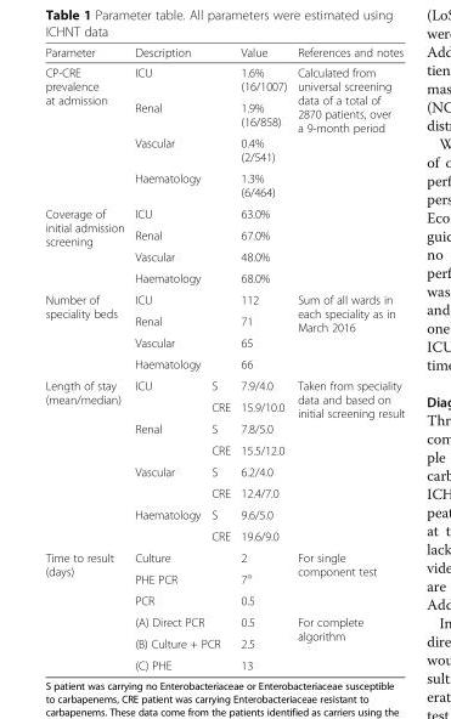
<table><thead><tr><td>Parameter</td><td colspan="2">Description</td><td>Value</td><td>References and notes</td></tr></thead><tbody><tr><td rowspan="4">CP-CRE prevalence at admission</td><td colspan="2">ICU</td><td>1.6% (16/1007)</td><td rowspan="8">Calculated from universal screening data of a total of 2870 patients, over a 9-month period</td></tr><tr><td colspan="2">Renal</td><td>1.9% (16/858)</td></tr><tr><td colspan="2">Vascular</td><td>0.4% (2/541)</td></tr><tr><td colspan="2">Haematology</td><td>1.3% (6/464)</td></tr><tr><td rowspan="4">Coverage of initial admission screening</td><td colspan="2">ICU</td><td>63.0%</td></tr><tr><td colspan="2">Renal</td><td>67.0%</td></tr><tr><td colspan="2">Vascular</td><td>48.0%</td></tr><tr><td colspan="2">Haematology</td><td>68.0%</td></tr><tr><td rowspan="4">Number of speciality beds</td><td colspan="2">ICU</td><td>112</td><td rowspan="4">Sum of all wards in each speciality as in March 2016</td></tr><tr><td colspan="2">Renal</td><td>71</td></tr><tr><td colspan="2">Vascular</td><td>65</td></tr><tr><td colspan="2">Haematology</td><td>66</td></tr><tr><td rowspan="8">Length of stay (mean/median)</td><td rowspan="2">ICU</td><td>S</td><td>7.9/4.0</td><td rowspan="8">Taken from speciality data and based on initial screening result</td></tr><tr><td>CRE</td><td>15.9/10.0</td></tr><tr><td rowspan="2">Renal</td><td>S</td><td>7.8/5.0</td></tr><tr><td>CRE</td><td>15.5/12.0</td></tr><tr><td rowspan="2">Vascular</td><td>S</td><td>6.2/4.0</td></tr><tr><td>CRE</td><td>12.4/7.0</td></tr><tr><td rowspan="2">Haematology</td><td>S</td><td>9.6/5.0</td></tr><tr><td>CRE</td><td>19.6/9.0</td></tr><tr><td rowspan="6">Time to result (days)</td><td colspan="2">Culture</td><td>2</td><td rowspan="3">For single component test</td></tr><tr><td colspan="2">PHE PCR</td><td>7<sup>a</sup></td></tr><tr><td colspan="2">PCR</td><td>0.5</td></tr><tr><td colspan="2">(A) Direct PCR</td><td>0.5</td><td rowspan="3">For complete algorithm</td></tr><tr><td colspan="2">(B) Culture + PCR</td><td>2.5</td></tr><tr><td colspan="2">(C) PHE</td><td>13</td></tr></tbody></table>